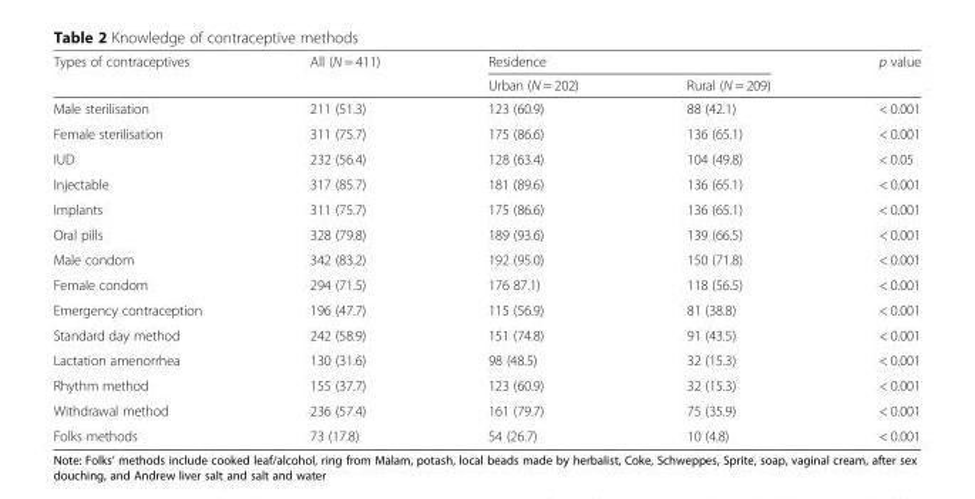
<table><thead><tr><td rowspan="2">Types of contraceptives</td><td rowspan="2">All (N = 411)</td><td colspan="2">Residence</td><td rowspan="2">p value</td></tr><tr><td>Urban (N = 202)</td><td>Rural (N = 209)</td></tr></thead><tbody><tr><td>Male sterilisation</td><td>211 (51.3)</td><td>123 (60.9)</td><td>88 (42.1)</td><td>&lt; 0.001</td></tr><tr><td>Female sterilisation</td><td>311 (75.7)</td><td>175 (86.6)</td><td>136 (65.1)</td><td>&lt; 0.001</td></tr><tr><td>IUD</td><td>232 (56.4)</td><td>128 (63.4)</td><td>104 (49.8)</td><td>&lt; 0.05</td></tr><tr><td>Injectable</td><td>317 (85.7)</td><td>181 (89.6)</td><td>136 (65.1)</td><td>&lt; 0.001</td></tr><tr><td>Implants</td><td>311 (75.7)</td><td>175 (86.6)</td><td>136 (65.1)</td><td>&lt; 0.001</td></tr><tr><td>Oral pills</td><td>328 (79.8)</td><td>189 (93.6)</td><td>139 (66.5)</td><td>&lt; 0.001</td></tr><tr><td>Male condom</td><td>342 (83.2)</td><td>192 (95.0)</td><td>150 (71.8)</td><td>&lt; 0.001</td></tr><tr><td>Female condom</td><td>294 (71.5)</td><td>176 87.1)</td><td>118 (56.5)</td><td>&lt; 0.001</td></tr><tr><td>Emergency contraception</td><td>196 (47.7)</td><td>115 (56.9)</td><td>81 (38.8)</td><td>&lt; 0.001</td></tr><tr><td>Standard day method</td><td>242 (58.9)</td><td>151 (74.8)</td><td>91 (43.5)</td><td>&lt; 0.001</td></tr><tr><td>Lactation amenorrhea</td><td>130 (31.6)</td><td>98 (48.5)</td><td>32 (15.3)</td><td>&lt; 0.001</td></tr><tr><td>Rhythm method</td><td>155 (37.7)</td><td>123 (60.9)</td><td>32 (15.3)</td><td>&lt; 0.001</td></tr><tr><td>Withdrawal method</td><td>236 (57.4)</td><td>161 (79.7)</td><td>75 (35.9)</td><td>&lt; 0.001</td></tr><tr><td>Folks methods</td><td>73 (17.8)</td><td>54 (26.7)</td><td>10 (4.8)</td><td>&lt; 0.001</td></tr></tbody></table>